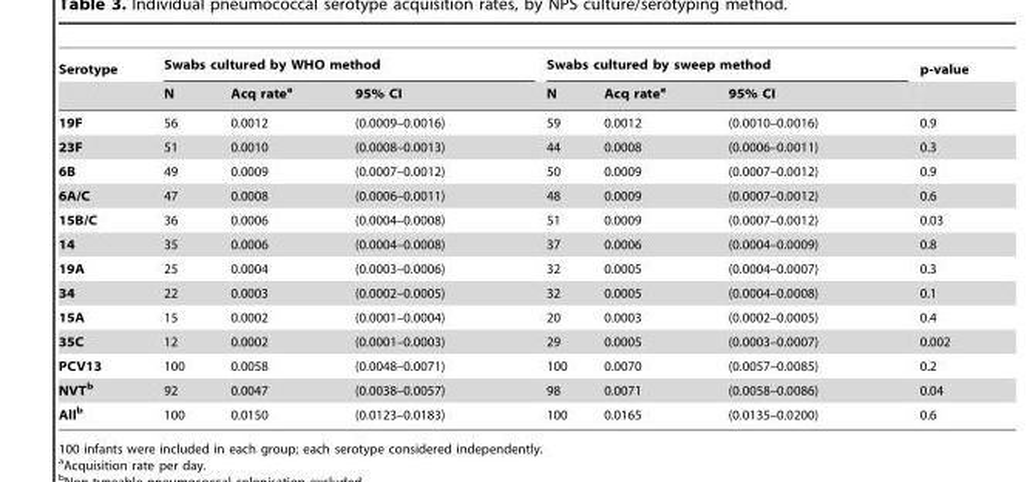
<table><thead><tr><td rowspan="2">Serotype</td><td colspan="3">Swabs cultured by WHO method</td><td colspan="3">Swabs cultured by sweep method</td><td rowspan="2">p-value</td></tr><tr><td>N</td><td>Acq rate<sup>a</sup></td><td>95% CI</td><td>N</td><td>Acq rate<sup>a</sup></td><td>95% CI</td></tr></thead><tbody><tr><td>19F</td><td>56</td><td>0.0012</td><td>(0.0009–0.0016)</td><td>59</td><td>0.0012</td><td>(0.0010–0.0016)</td><td>0.9</td></tr><tr><td>23F</td><td>51</td><td>0.0010</td><td>(0.0008–0.0013)</td><td>44</td><td>0.0008</td><td>(0.0006–0.0011)</td><td>0.3</td></tr><tr><td>6B</td><td>49</td><td>0.0009</td><td>(0.0007–0.0012)</td><td>50</td><td>0.0009</td><td>(0.0007–0.0012)</td><td>0.9</td></tr><tr><td>6A/C</td><td>47</td><td>0.0008</td><td>(0.0006–0.0011)</td><td>48</td><td>0.0009</td><td>(0.0007–0.0012)</td><td>0.6</td></tr><tr><td>15B/C</td><td>36</td><td>0.0006</td><td>(0.0004–0.0008)</td><td>51</td><td>0.0009</td><td>(0.0007–0.0012)</td><td>0.03</td></tr><tr><td>14</td><td>35</td><td>0.0006</td><td>(0.0004–0.0008)</td><td>37</td><td>0.0006</td><td>(0.0004–0.0009)</td><td>0.8</td></tr><tr><td>19A</td><td>25</td><td>0.0004</td><td>(0.0003–0.0006)</td><td>32</td><td>0.0005</td><td>(0.0004–0.0007)</td><td>0.3</td></tr><tr><td>34</td><td>22</td><td>0.0003</td><td>(0.0002–0.0005)</td><td>32</td><td>0.0005</td><td>(0.0004–0.0008)</td><td>0.1</td></tr><tr><td>15A</td><td>15</td><td>0.0002</td><td>(0.0001–0.0004)</td><td>20</td><td>0.0003</td><td>(0.0002–0.0005)</td><td>0.4</td></tr><tr><td>35C</td><td>12</td><td>0.0002</td><td>(0.0001–0.0003)</td><td>29</td><td>0.0005</td><td>(0.0003–0.0007)</td><td>0.002</td></tr><tr><td>PCV13</td><td>100</td><td>0.0058</td><td>(0.0048–0.0071)</td><td>100</td><td>0.0070</td><td>(0.0057–0.0085)</td><td>0.2</td></tr><tr><td>NVTb</td><td>92</td><td>0.0047</td><td>(0.0038–0.0057)</td><td>98</td><td>0.0071</td><td>(0.0058–0.0086)</td><td>0.04</td></tr><tr><td>Allb</td><td>100</td><td>0.0150</td><td>(0.0123–0.0183)</td><td>100</td><td>0.0165</td><td>(0.0135–0.0200)</td><td>0.6</td></tr></tbody></table>